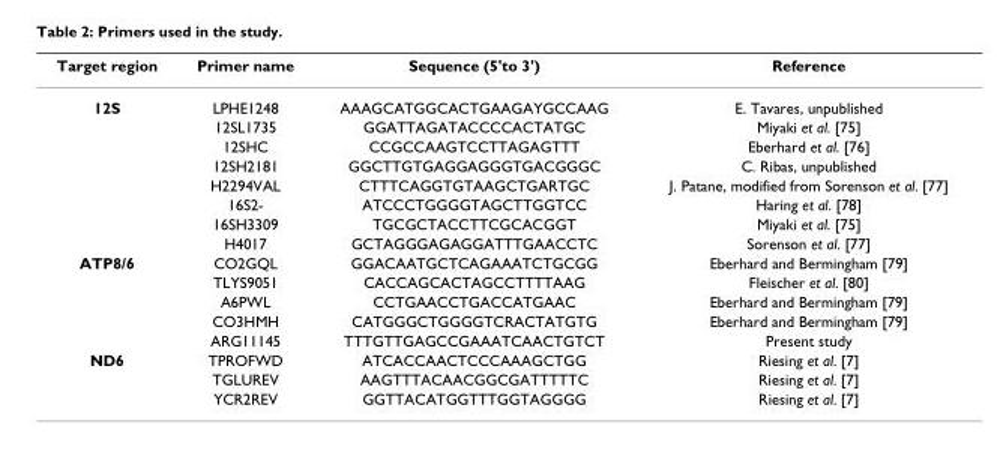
<table><thead><tr><td>Target region</td><td>Primer name</td><td>Sequence (5&#x27;to 3&#x27;)</td><td>Reference</td></tr></thead><tbody><tr><td rowspan="8">12S</td><td>LPHE1248</td><td>AAAGCATGGCACTGAAGAYGCCAAG</td><td>E. Tavares, unpublished</td></tr><tr><td>12SL1735</td><td>GGATTAGATACCCCACTATGC</td><td>Miyaki et al. [75]</td></tr><tr><td>12SHC</td><td>CCGCCAAGTCCTTAGAGTTT</td><td>Eberhard et al. [76]</td></tr><tr><td>12SH2181</td><td>GGCTTGTGAGGAGGGTGACGGGC</td><td>C. Ribas, unpublished</td></tr><tr><td>H2294VAL</td><td>CTTTCAGGTGTAAGCTGARTGC</td><td>J. Patane, modified from Sorenson et al. [77]</td></tr><tr><td>16S2-</td><td>ATCCCTGGGGTAGCTTGGTCC</td><td>Haring et al. [78]</td></tr><tr><td>16SH3309</td><td>TGCGCTACCTTCGCACGGT</td><td>Miyaki et al. [75]</td></tr><tr><td>H4017</td><td>GCTAGGGAGAGGATTTGAACCTC</td><td>Sorenson et al. [77]</td></tr><tr><td rowspan="5">ATP8/6</td><td>CO2GQL</td><td>GGACAATGCTCAGAAATCTGCGG</td><td>Eberhard and Bermingham [79]</td></tr><tr><td>TLYS9051</td><td>CACCAGCACTAGCCTTTTAAG</td><td>Fleischer et al. [80]</td></tr><tr><td>A6PWL</td><td>CCTGAACCTGACCATGAAC</td><td>Eberhard and Bermingham [79]</td></tr><tr><td>CO3HMH</td><td>CATGGGCTGGGGTCRACTATGTG</td><td>Eberhard and Bermingham [79]</td></tr><tr><td>ARG11145</td><td>TTTGTTGAGCCGAAATCAACTGTCT</td><td>Present study</td></tr><tr><td rowspan="3">ND6</td><td>TPROFWD</td><td>ATCACCAACTCCCAAAGCTGG</td><td>Riesing et al. [7]</td></tr><tr><td>TGLUREV</td><td>AAGTTTACAACGGCGATTTTTC</td><td>Riesing et al. [7]</td></tr><tr><td>YCR2REV</td><td>GGTTACATGGTTTGGTAGGGG</td><td>Riesing et al. [7]</td></tr></tbody></table>